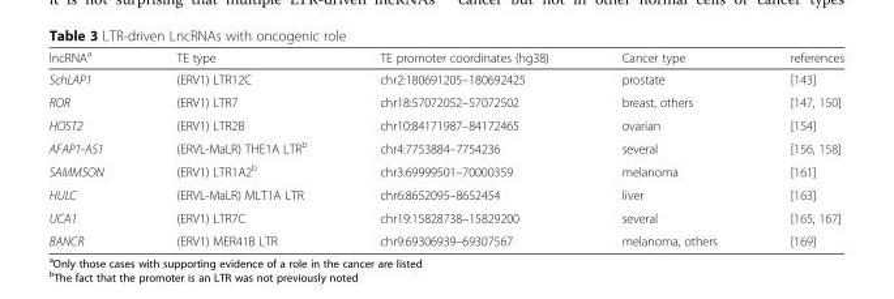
<table><thead><tr><td>lncRNA<sup>a</sup></td><td>TE type</td><td>TE promoter coordinates (hg38)</td><td>Cancer type</td><td>references</td></tr></thead><tbody><tr><td>SchLAP1</td><td>(ERV1) LTR12C</td><td>chr2:180691205–180692425</td><td>prostate</td><td>[143]</td></tr><tr><td>ROR</td><td>(ERV1) LTR7</td><td>chr18:57072052–57072502</td><td>breast, others</td><td>[147, 150]</td></tr><tr><td>HOST2</td><td>(ERV1) LTR2B</td><td>chr10:84171987–84172465</td><td>ovarian</td><td>[154]</td></tr><tr><td>AFAP1-AS1</td><td>(ERVL-MaLR) THE1A LTR<sup>b</sup></td><td>chr4:7753884–7754236</td><td>several</td><td>[156, 158]</td></tr><tr><td>SAMMSON</td><td>(ERV1) LTR1A2<sup>b</sup></td><td>chr3:69999501–70000359</td><td>melanoma</td><td>[161]</td></tr><tr><td>HULC</td><td>(ERVL-MaLR) MLT1A LTR</td><td>chr6:8652095–8652454</td><td>liver</td><td>[163]</td></tr><tr><td>UCA1</td><td>(ERV1) LTR7C</td><td>chr19:15828738–15829200</td><td>several</td><td>[165, 167]</td></tr><tr><td>BANCR</td><td>(ERV1) MER41B LTR</td><td>chr9:69306939–69307567</td><td>melanoma, others</td><td>[169]</td></tr></tbody></table>